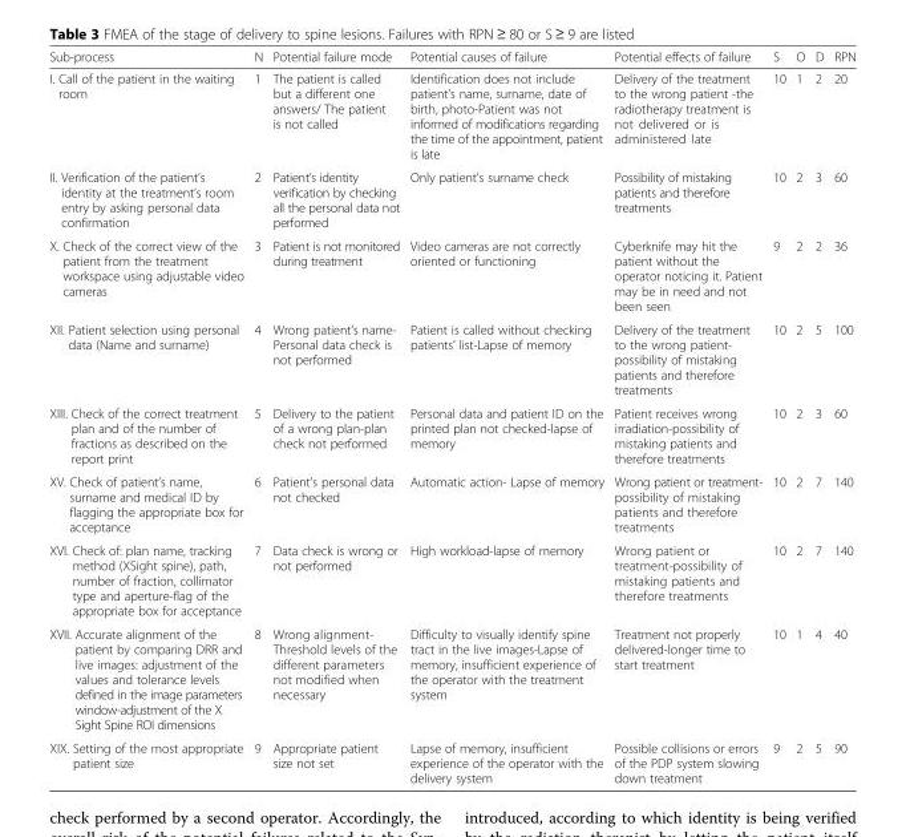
<table><thead><tr><td>Sub-process</td><td>N</td><td>Potential failure mode</td><td>Potential causes of failure</td><td>Potential effects of failure</td><td>S</td><td>O</td><td>D</td><td>RPN</td></tr></thead><tbody><tr><td>I. Call of the patient in the waiting room</td><td>1</td><td>The patient is called but a different one answers/ The patient is not called</td><td>Identification does not include patient’s name, surname, date of birth, photo-Patient was not informed of modifications regarding the time of the appointment, patient is late</td><td>Delivery of the treatment to the wrong patient -the radiotherapy treatment is not delivered or is administered late</td><td>10</td><td>1</td><td>2</td><td>20</td></tr><tr><td>II. Verification of the patient’s identity at the treatment’s room entry by asking personal data confirmation</td><td>2</td><td>Patient’s identity verification by checking all the personal data not performed</td><td>Only patient’s surname check</td><td>Possibility of mistaking patients and therefore treatments</td><td>10</td><td>2</td><td>3</td><td>60</td></tr><tr><td>X. Check of the correct view of the patient from the treatment workspace using adjustable video cameras</td><td>3</td><td>Patient is not monitored during treatment</td><td>Video cameras are not correctly oriented or functioning</td><td>Cyberknife may hit the patient without the operator noticing it. Patient may be in need and not been seen</td><td>9</td><td>2</td><td>2</td><td>36</td></tr><tr><td>XII. Patient selection using personal data (Name and surname)</td><td>4</td><td>Wrong patient’s name- Personal data check is not performed</td><td>Patient is called without checking patients’ list-Lapse of memory</td><td>Delivery of the treatment to the wrong patient- possibility of mistaking patients and therefore treatments</td><td>10</td><td>2</td><td>5</td><td>100</td></tr><tr><td>XIII. Check of the correct treatment plan and of the number of fractions as described on the report print</td><td>5</td><td>Delivery to the patient of a wrong plan-plan check not performed</td><td>Personal data and patient ID on the printed plan not checked-lapse of memory</td><td>Patient receives wrong irradiation-possibility of mistaking patients and therefore treatments</td><td>10</td><td>2</td><td>3</td><td>60</td></tr><tr><td>XV. Check of patient’s name, surname and medical ID by flagging the appropriate box for acceptance</td><td>6</td><td>Patient’s personal data not checked</td><td>Automatic action- Lapse of memory</td><td>Wrong patient or treatment- possibility of mistaking patients and therefore treatments</td><td>10</td><td>2</td><td>7</td><td>140</td></tr><tr><td>XVI. Check of: plan name, tracking method (XSight spine), path, number of fraction, collimator type and aperture-flag of the appropriate box for acceptance</td><td>7</td><td>Data check is wrong or not performed</td><td>High workload-lapse of memory</td><td>Wrong patient or treatment-possibility of mistaking patients and therefore treatments</td><td>10</td><td>2</td><td>7</td><td>140</td></tr><tr><td>XVII. Accurate alignment of the patient by comparing DRR and live images: adjustment of the values and tolerance levels defined in the image parameters window-adjustment of the X Sight Spine ROI dimensions</td><td>8</td><td>Wrong alignment- Threshold levels of the different parameters not modified when necessary</td><td>Difficulty to visually identify spine tract in the live images-Lapse of memory, insufficient experience of the operator with the treatment system</td><td>Treatment not properly delivered-longer time to start treatment</td><td>10</td><td>1</td><td>4</td><td>40</td></tr><tr><td>XIX. Setting of the most appropriate patient size</td><td>9</td><td>Appropriate patient size not set</td><td>Lapse of memory, insufficient experience of the operator with the delivery system</td><td>Possible collisions or errors of the PDP system slowing down treatment</td><td>9</td><td>2</td><td>5</td><td>90</td></tr></tbody></table>